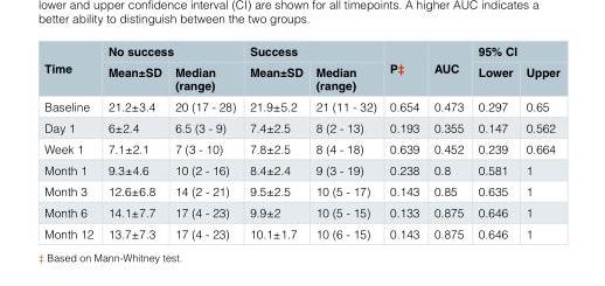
<table><thead><tr><td rowspan="2">Time</td><td colspan="2">No success</td><td colspan="2">Success</td><td rowspan="2">P‡</td><td rowspan="2">AUC</td><td colspan="2">95% CI</td></tr><tr><td>Mean±SD</td><td>Median (range)</td><td>Mean±SD</td><td>Median (range)</td><td>Lower</td><td>Upper</td></tr></thead><tbody><tr><td>Baseline</td><td>21.2±3.4</td><td>20 (17 - 28)</td><td>21.9±5.2</td><td>21 (11 - 32)</td><td>0.654</td><td>0.473</td><td>0.297</td><td>0.65</td></tr><tr><td>Day 1</td><td>6±2.4</td><td>6.5 (3 - 9)</td><td>7.4±2.5</td><td>8 (2 - 13)</td><td>0.193</td><td>0.355</td><td>0.147</td><td>0.562</td></tr><tr><td>Week 1</td><td>7.1±2.1</td><td>7 (3 - 10)</td><td>7.8±2.5</td><td>8 (4 - 18)</td><td>0.639</td><td>0.452</td><td>0.239</td><td>0.664</td></tr><tr><td>Month 1</td><td>9.3±4.6</td><td>10 (2 - 16)</td><td>8.4±2.4</td><td>9 (3 - 19)</td><td>0.238</td><td>0.8</td><td>0.581</td><td>1</td></tr><tr><td>Month 3</td><td>12.6±6.8</td><td>14 (2 - 21)</td><td>9.5±2.5</td><td>10 (5 - 17)</td><td>0.143</td><td>0.85</td><td>0.635</td><td>1</td></tr><tr><td>Month 6</td><td>14.1±7.7</td><td>17 (4 - 23)</td><td>9.9±2</td><td>10 (5 - 15)</td><td>0.133</td><td>0.875</td><td>0.646</td><td>1</td></tr><tr><td>Month 12</td><td>13.7±7.3</td><td>17 (4 - 23)</td><td>10.1±1.7</td><td>10 (6 - 15)</td><td>0.143</td><td>0.875</td><td>0.646</td><td>1</td></tr></tbody></table>